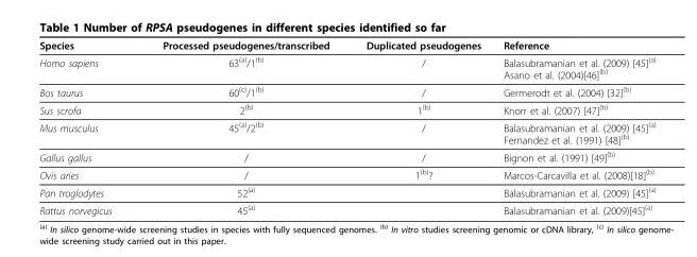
<table><thead><tr><td>Species</td><td>Processed pseudogenes/transcribed</td><td>Duplicated pseudogenes</td><td>Reference</td></tr></thead><tbody><tr><td>Homo sapiens</td><td>63<sup>(a)</sup>/1<sup>(b)</sup></td><td>/</td><td>Balasubramanian et al. (2009) [45]<sup>(a)</sup> Asano et al. (2004)[46]<sup>(b)</sup></td></tr><tr><td>Bos taurus</td><td>60<sup>(c)</sup>/1<sup>(b)</sup></td><td>/</td><td>Germerodt et al. (2004) [32]<sup>(b)</sup></td></tr><tr><td>Sus scrofa</td><td>2<sup>(b)</sup></td><td>1<sup>(b)</sup></td><td>Knorr et al. (2007) [47]<sup>(b)</sup></td></tr><tr><td>Mus musculus</td><td>45<sup>(a)</sup>/2<sup>(b)</sup></td><td>/</td><td>Balasubramanian et al. (2009) [45]<sup>(a)</sup> Fernandez et al. (1991) [48]<sup>(b)</sup></td></tr><tr><td>Gallus gallus</td><td>/</td><td>/</td><td>Bignon et al. (1991) [49]<sup>(b)</sup></td></tr><tr><td>Ovis aries</td><td>/</td><td>1<sup>(b)</sup>?</td><td>Marcos-Carcavilla et al. (2008)[18]<sup>(b)</sup></td></tr><tr><td>Pan troglodytes</td><td>52<sup>(a)</sup></td><td></td><td>Balasubramanian et al. (2009) [45]<sup>(a)</sup></td></tr><tr><td>Rattus norvegicus</td><td>45<sup>(a)</sup></td><td></td><td>Balasubramanian et al. (2009)[45]<sup>(a)</sup></td></tr></tbody></table>